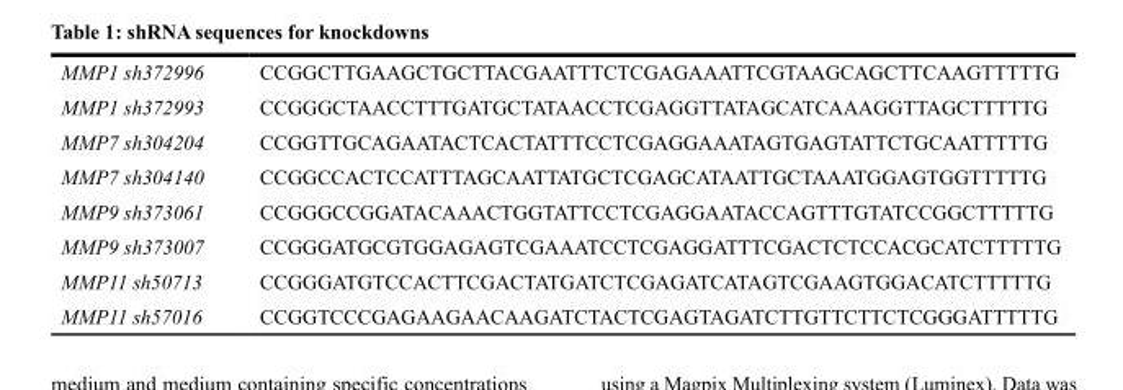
<table><tbody><tr><td>MMP1 sh372996</td><td>CCGGCTTGAAGCTGCTTACGAATTTCTCGAGAAATTCGTAAGCAGCTTCAAGTTTTTG</td></tr><tr><td>MMP1 sh372993</td><td>CCGGGCTAACCTTTGATGCTATAACCTCGAGGTTATAGCATCAAAGGTTAGCTTTTTG</td></tr><tr><td>MMP7 sh304204</td><td>CCGGTTGCAGAATACTCACTATTTCCTCGAGGAAATAGTGAGTATTCTGCAATTTTTG</td></tr><tr><td>MMP7 sh304140</td><td>CCGGCCACTCCATTTAGCAATTATGCTCGAGCATAATTGCTAAATGGAGTGGTTTTTG</td></tr><tr><td>MMP9 sh373061</td><td>CCGGGCCGGATACAAACTGGTATTCCTCGAGGAATACCAGTTTGTATCCGGCTTTTTG</td></tr><tr><td>MMP9 sh373007</td><td>CCGGGATGCGTGGAGAGTCGAAATCCTCGAGGATTTCGACTCTCCACGCATCTTTTTG</td></tr><tr><td>MMP11 sh50713</td><td>CCGGGATGTCCACTTCGACTATGATCTCGAGATCATAGTCGAAGTGGACATCTTTTTG</td></tr><tr><td>MMP11 sh57016</td><td>CCGGTCCCGAGAAGAACAAGATCTACTCGAGTAGATCTTGTTCTTCTCGGGATTTTTG</td></tr></tbody></table>